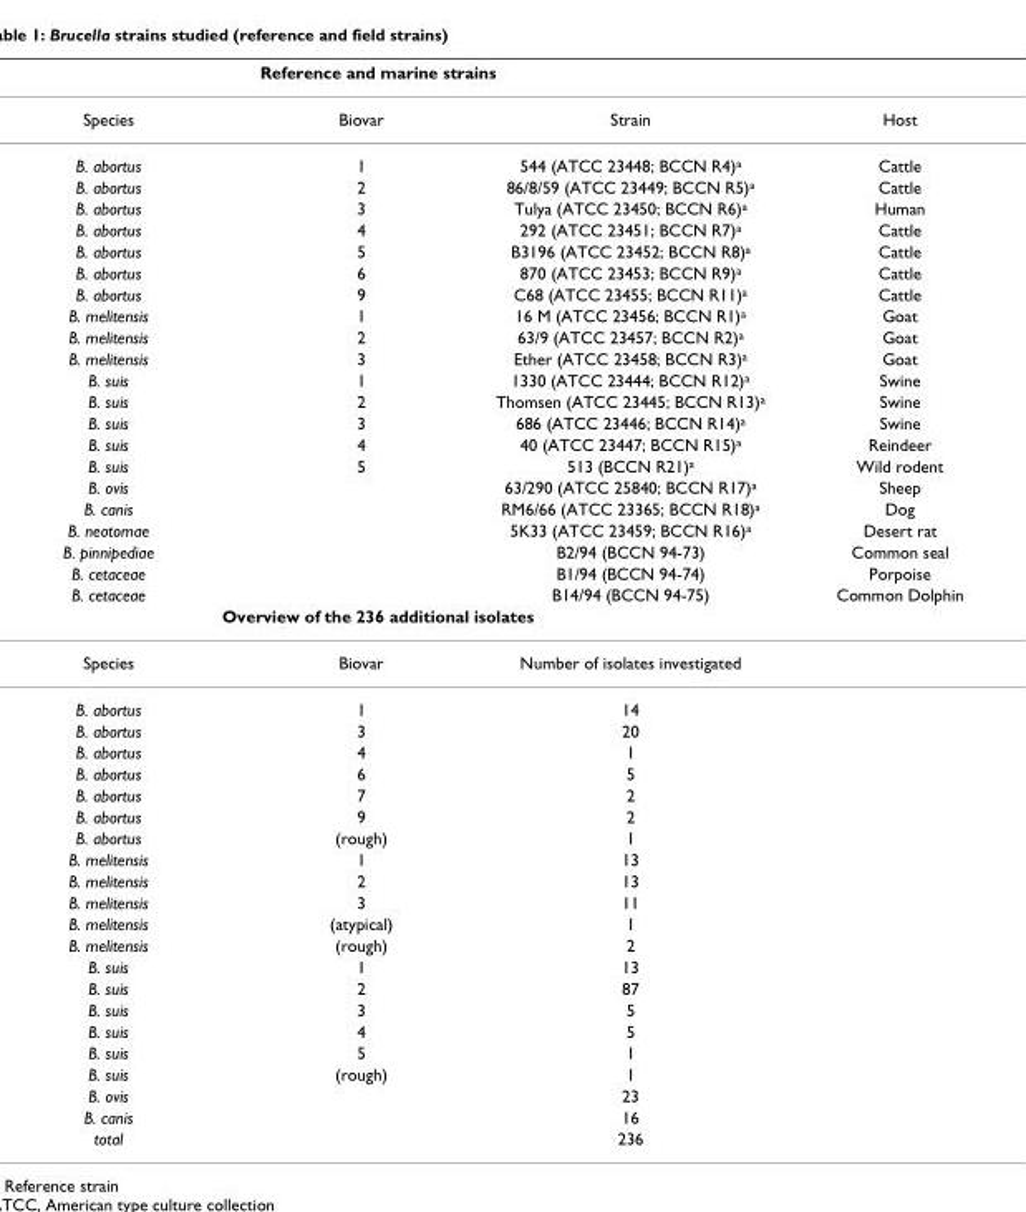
<table><thead><tr><td colspan="3">Reference and marine strains</td><td rowspan="2">Host</td></tr><tr><td>Species</td><td>Biovar</td><td>Strain</td></tr></thead><tbody><tr><td>B. abortus</td><td>1</td><td>544 (ATCC 23448; BCCN R4)a</td><td>Cattle</td></tr><tr><td>B. abortus</td><td>2</td><td>86/8/59 (ATCC 23449; BCCN R5)a</td><td>Cattle</td></tr><tr><td>B. abortus</td><td>3</td><td>Tulya (ATCC 23450; BCCN R6)a</td><td>Human</td></tr><tr><td>B. abortus</td><td>4</td><td>292 (ATCC 23451; BCCN R7)a</td><td>Cattle</td></tr><tr><td>B. abortus</td><td>5</td><td>B3196 (ATCC 23452; BCCN R8)a</td><td>Cattle</td></tr><tr><td>B. abortus</td><td>6</td><td>870 (ATCC 23453; BCCN R9)a</td><td>Cattle</td></tr><tr><td>B. abortus</td><td>9</td><td>C68 (ATCC 23455; BCCN R11)a</td><td>Cattle</td></tr><tr><td>B. melitensis</td><td>1</td><td>16 M (ATCC 23456; BCCN R1)a</td><td>Goat</td></tr><tr><td>B. melitensis</td><td>2</td><td>63/9 (ATCC 23457; BCCN R2)a</td><td>Goat</td></tr><tr><td>B. melitensis</td><td>3</td><td>Ether (ATCC 23458; BCCN R3)a</td><td>Goat</td></tr><tr><td>B. suis</td><td>1</td><td>1330 (ATCC 23444; BCCN R12)a</td><td>Swine</td></tr><tr><td>B. suis</td><td>2</td><td>Thomsen (ATCC 23445; BCCN R13)a</td><td>Swine</td></tr><tr><td>B. suis</td><td>3</td><td>686 (ATCC 23446; BCCN R14)a</td><td>Swine</td></tr><tr><td>B. suis</td><td>4</td><td>40 (ATCC 23447; BCCN R15)a</td><td>Reindeer</td></tr><tr><td>B. suis</td><td>5</td><td>513 (BCCN R21)a</td><td>Wild rodent</td></tr><tr><td>B. ovis</td><td></td><td>63/290 (ATCC 25840; BCCN R17)a</td><td>Sheep</td></tr><tr><td>B. canis</td><td></td><td>RM6/66 (ATCC 23365; BCCN R18)a</td><td>Dog</td></tr><tr><td>B. neotomae</td><td></td><td>5K33 (ATCC 23459; BCCN R16)a</td><td>Desert rat</td></tr><tr><td>B. pinnipediae</td><td></td><td>B2/94 (BCCN 94-73)</td><td>Common seal</td></tr><tr><td>B. cetaceae</td><td></td><td>B1/94 (BCCN 94-74)</td><td>Porpoise</td></tr><tr><td>B. cetaceae</td><td></td><td>B14/94 (BCCN 94-75)</td><td>Common Dolphin</td></tr><tr><td colspan="4">Overview of the 236 additional isolates</td></tr><tr><td>Species</td><td>Biovar</td><td>Number of isolates investigated</td><td></td></tr><tr><td>B. abortus</td><td>1</td><td>14</td><td></td></tr><tr><td>B. abortus</td><td>3</td><td>20</td><td></td></tr><tr><td>B. abortus</td><td>4</td><td>1</td><td></td></tr><tr><td>B. abortus</td><td>6</td><td>5</td><td></td></tr><tr><td>B. abortus</td><td>7</td><td>2</td><td></td></tr><tr><td>B. abortus</td><td>9</td><td>2</td><td></td></tr><tr><td>B. abortus</td><td>(rough)</td><td>1</td><td></td></tr><tr><td>B. melitensis</td><td>1</td><td>13</td><td></td></tr><tr><td>B. melitensis</td><td>2</td><td>13</td><td></td></tr><tr><td>B. melitensis</td><td>3</td><td>11</td><td></td></tr><tr><td>B. melitensis</td><td>(atypical)</td><td>1</td><td></td></tr><tr><td>B. melitensis</td><td>(rough)</td><td>2</td><td></td></tr><tr><td>B. suis</td><td>1</td><td>13</td><td></td></tr><tr><td>B. suis</td><td>2</td><td>87</td><td></td></tr><tr><td>B. suis</td><td>3</td><td>5</td><td></td></tr><tr><td>B. suis</td><td>4</td><td>5</td><td></td></tr><tr><td>B. suis</td><td>5</td><td>1</td><td></td></tr><tr><td>B. suis</td><td>(rough)</td><td>1</td><td></td></tr><tr><td>B. ovis</td><td></td><td>23</td><td></td></tr><tr><td>B. canis</td><td></td><td>16</td><td></td></tr><tr><td>total</td><td></td><td>236</td><td></td></tr></tbody></table>